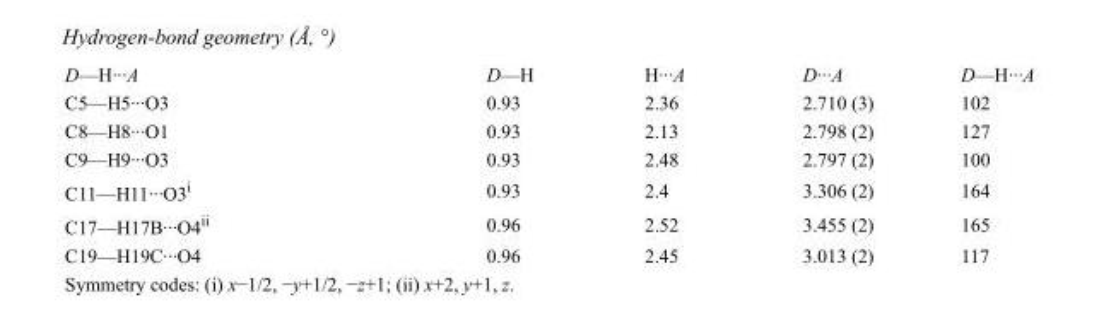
<table><tbody><tr><td>D—H···A</td><td>D—H</td><td>H···A</td><td>D···A</td><td>D—H···A</td></tr><tr><td>C5—H5···O3</td><td>0.93</td><td>2.36</td><td>2.710 (3)</td><td>102</td></tr><tr><td>C8—H8···O1</td><td>0.93</td><td>2.13</td><td>2.798 (2)</td><td>127</td></tr><tr><td>C9—H9···O3</td><td>0.93</td><td>2.48</td><td>2.797 (2)</td><td>100</td></tr><tr><td>C11—H11···O3<sup>i</sup></td><td>0.93</td><td>2.4</td><td>3.306 (2)</td><td>164</td></tr><tr><td>C17—H17B···O4<sup>ii</sup></td><td>0.96</td><td>2.52</td><td>3.455 (2)</td><td>165</td></tr><tr><td>C19—H19C···O4</td><td>0.96</td><td>2.45</td><td>3.013 (2)</td><td>117</td></tr></tbody></table>